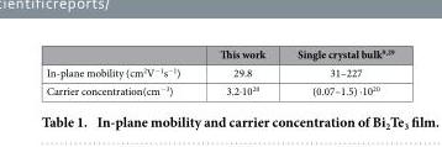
<table><thead><tr><td></td><td>This work</td><td>Single crystal bulk<sup>9</sup>,<sup>29</sup></td></tr></thead><tbody><tr><td>In-plane mobility (cm<sup>2</sup>V<sup>−1</sup>s<sup>−1</sup>)</td><td>29.8</td><td>31–227</td></tr><tr><td>Carrier concentration(cm<sup>−3</sup>)</td><td>3.2·10<sup>20</sup></td><td>(0.07–1.5) ·10<sup>20</sup></td></tr></tbody></table>